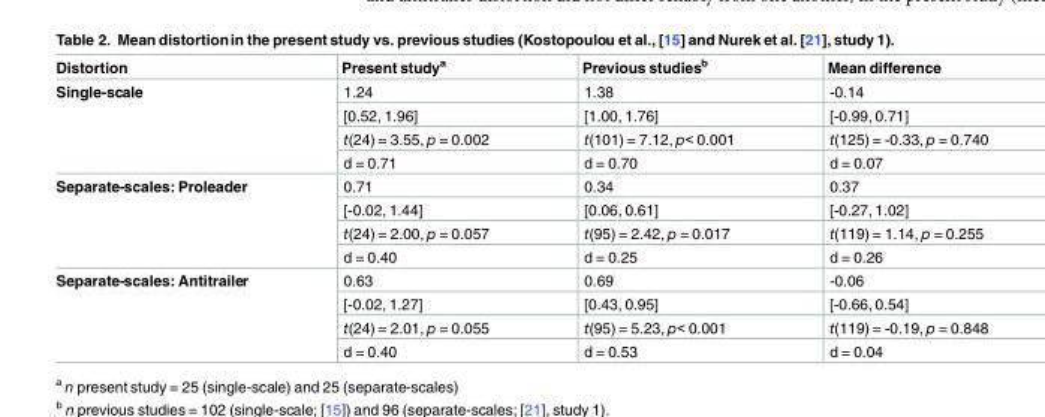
<table><thead><tr><td>Distortion</td><td>Present study<sup>a</sup></td><td>Previous studies<sup>b</sup></td><td>Mean difference</td></tr></thead><tbody><tr><td rowspan="4">Single-scale</td><td>1.24</td><td>1.38</td><td>-0.14</td></tr><tr><td>[0.52, 1.96]</td><td>[1.00, 1.76]</td><td>[-0.99, 0.71]</td></tr><tr><td>t(24) = 3.55, p = 0.002</td><td>t(101) = 7.12, p&lt; 0.001</td><td>t(125) = -0.33, p = 0.740</td></tr><tr><td>d = 0.71</td><td>d = 0.70</td><td>d = 0.07</td></tr><tr><td rowspan="4">Separate-scales: Proleader</td><td>0.71</td><td>0.34</td><td>0.37</td></tr><tr><td>[-0.02, 1.44]</td><td>[0.06, 0.61]</td><td>[-0.27, 1.02]</td></tr><tr><td>t(24) = 2.00, p = 0.057</td><td>t(95) = 2.42, p = 0.017</td><td>t(119) = 1.14, p = 0.255</td></tr><tr><td>d = 0.40</td><td>d = 0.25</td><td>d = 0.26</td></tr><tr><td rowspan="4">Separate-scales: Antitrailer</td><td>0.63</td><td>0.69</td><td>-0.06</td></tr><tr><td>[-0.02, 1.27]</td><td>[0.43, 0.95]</td><td>[-0.66, 0.54]</td></tr><tr><td>t(24) = 2.01, p = 0.055</td><td>t(95) = 5.23, p&lt; 0.001</td><td>t(119) = -0.19, p = 0.848</td></tr><tr><td>d = 0.40</td><td>d = 0.53</td><td>d = 0.04</td></tr></tbody></table>